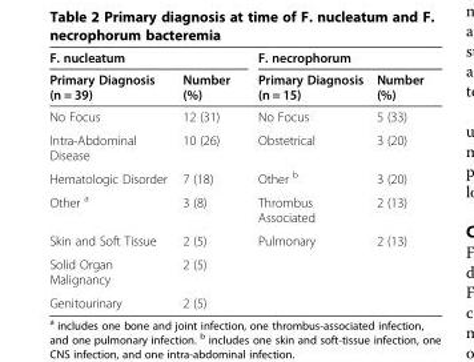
<table><thead><tr><td colspan="2">F. nucleatum</td><td colspan="2">F. necrophorum</td></tr><tr><td>Primary Diagnosis (n = 39)</td><td>Number (%)</td><td>Primary Diagnosis (n = 15)</td><td>Number (%)</td></tr></thead><tbody><tr><td>No Focus</td><td>12 (31)</td><td>No Focus</td><td>5 (33)</td></tr><tr><td>Intra-Abdominal Disease</td><td>10 (26)</td><td>Obstetrical</td><td>3 (20)</td></tr><tr><td>Hematologic Disorder</td><td>7 (18)</td><td>Other <sup>b</sup></td><td>3 (20)</td></tr><tr><td>Other <sup>a</sup></td><td>3 (8)</td><td>Thrombus Associated</td><td>2 (13)</td></tr><tr><td>Skin and Soft Tissue</td><td>2 (5)</td><td>Pulmonary</td><td>2 (13)</td></tr><tr><td>Solid Organ Malignancy</td><td>2 (5)</td><td></td><td></td></tr><tr><td>Genitourinary</td><td>2 (5)</td><td></td><td></td></tr></tbody></table>